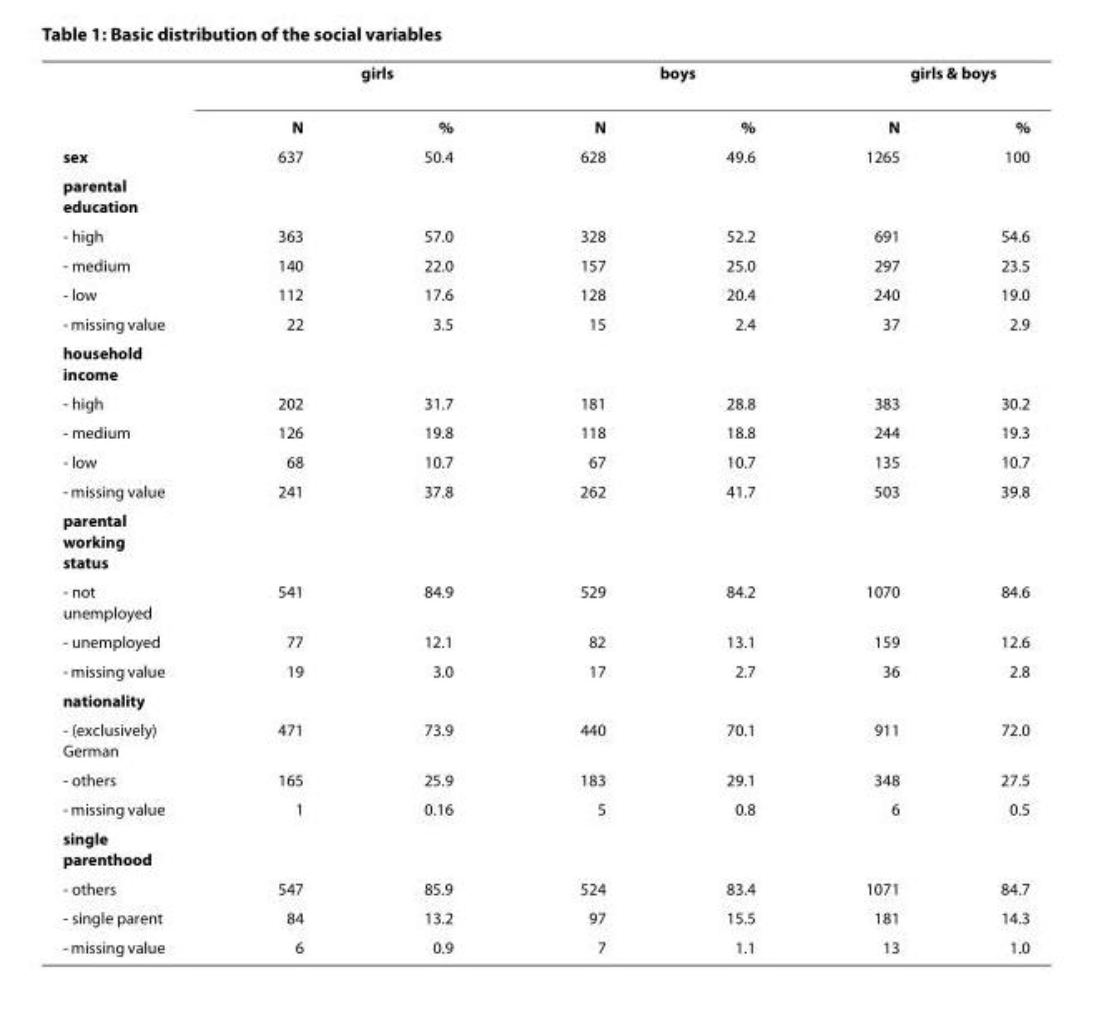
<table><thead><tr><td rowspan="2"></td><td colspan="2">girls</td><td colspan="2">boys</td><td colspan="2">girls &amp; boys</td></tr><tr><td>N</td><td>%</td><td>N</td><td>%</td><td>N</td><td>%</td></tr></thead><tbody><tr><td>sex</td><td>637</td><td>50.4</td><td>628</td><td>49.6</td><td>1265</td><td>100</td></tr><tr><td colspan="7">parental education</td></tr><tr><td>- high</td><td>363</td><td>57.0</td><td>328</td><td>52.2</td><td>691</td><td>54.6</td></tr><tr><td>- medium</td><td>140</td><td>22.0</td><td>157</td><td>25.0</td><td>297</td><td>23.5</td></tr><tr><td>- low</td><td>112</td><td>17.6</td><td>128</td><td>20.4</td><td>240</td><td>19.0</td></tr><tr><td>- missing value</td><td>22</td><td>3.5</td><td>15</td><td>2.4</td><td>37</td><td>2.9</td></tr><tr><td colspan="7">household income</td></tr><tr><td>- high</td><td>202</td><td>31.7</td><td>181</td><td>28.8</td><td>383</td><td>30.2</td></tr><tr><td>- medium</td><td>126</td><td>19.8</td><td>118</td><td>18.8</td><td>244</td><td>19.3</td></tr><tr><td>- low</td><td>68</td><td>10.7</td><td>67</td><td>10.7</td><td>135</td><td>10.7</td></tr><tr><td>- missing value</td><td>241</td><td>37.8</td><td>262</td><td>41.7</td><td>503</td><td>39.8</td></tr><tr><td colspan="7">parental working status</td></tr><tr><td>- not unemployed</td><td>541</td><td>84.9</td><td>529</td><td>84.2</td><td>1070</td><td>84.6</td></tr><tr><td>- unemployed</td><td>77</td><td>12.1</td><td>82</td><td>13.1</td><td>159</td><td>12.6</td></tr><tr><td>- missing value</td><td>19</td><td>3.0</td><td>17</td><td>2.7</td><td>36</td><td>2.8</td></tr><tr><td colspan="7">nationality</td></tr><tr><td>- (exclusively) German</td><td>471</td><td>73.9</td><td>440</td><td>70.1</td><td>911</td><td>72.0</td></tr><tr><td>- others</td><td>165</td><td>25.9</td><td>183</td><td>29.1</td><td>348</td><td>27.5</td></tr><tr><td>- missing value</td><td>1</td><td>0.16</td><td>5</td><td>0.8</td><td>6</td><td>0.5</td></tr><tr><td colspan="7">single parenthood</td></tr><tr><td>- others</td><td>547</td><td>85.9</td><td>524</td><td>83.4</td><td>1071</td><td>84.7</td></tr><tr><td>- single parent</td><td>84</td><td>13.2</td><td>97</td><td>15.5</td><td>181</td><td>14.3</td></tr><tr><td>- missing value</td><td>6</td><td>0.9</td><td>7</td><td>1.1</td><td>13</td><td>1.0</td></tr></tbody></table>